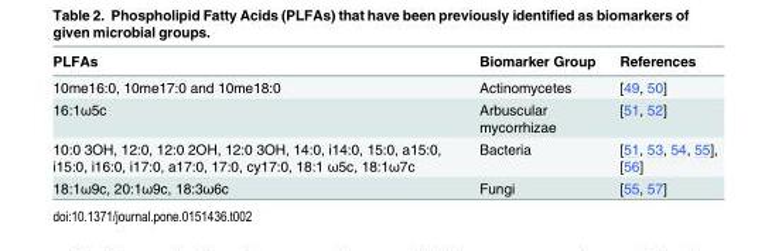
<table><thead><tr><td>PLFAs</td><td>Biomarker Group</td><td>References</td></tr></thead><tbody><tr><td>10me16:0, 10me17:0 and 10me18:0</td><td>Actinomycetes</td><td>[49, 50]</td></tr><tr><td>16:1ω5c</td><td>Arbuscular mycorrhizae</td><td>[51, 52]</td></tr><tr><td>10:0 3OH, 12:0, 12:0 2OH, 12:0 3OH, 14:0, i14:0, 15:0, a15:0, i15:0, i16:0, i17:0, a17:0, 17:0, cy17:0, 18:1 ω5c, 18:1ω7c</td><td>Bacteria</td><td>[51, 53, 54, 55], [56]</td></tr><tr><td>18:1ω9c, 20:1ω9c, 18:3ω6c</td><td>Fungi</td><td>[55, 57]</td></tr></tbody></table>